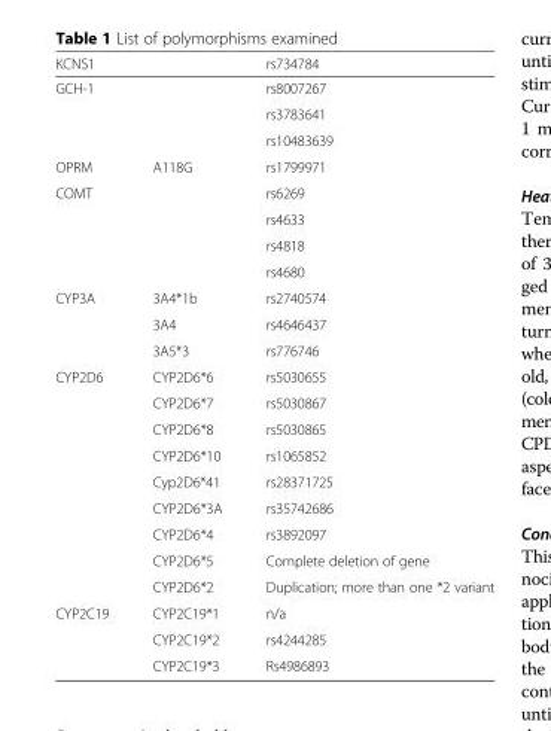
<table><thead><tr><td>KCNS1</td><td></td><td>rs734784</td></tr></thead><tbody><tr><td rowspan="3">GCH-1</td><td></td><td>rs8007267</td></tr><tr><td></td><td>rs3783641</td></tr><tr><td></td><td>rs10483639</td></tr><tr><td>OPRM</td><td>A118G</td><td>rs1799971</td></tr><tr><td rowspan="4">COMT</td><td></td><td>rs6269</td></tr><tr><td></td><td>rs4633</td></tr><tr><td></td><td>rs4818</td></tr><tr><td></td><td>rs4680</td></tr><tr><td rowspan="3">CYP3A</td><td>3A4*1b</td><td>rs2740574</td></tr><tr><td>3A4</td><td>rs4646437</td></tr><tr><td>3A5*3</td><td>rs776746</td></tr><tr><td rowspan="9">CYP2D6</td><td>CYP2D6*6</td><td>rs5030655</td></tr><tr><td>CYP2D6*7</td><td>rs5030867</td></tr><tr><td>CYP2D6*8</td><td>rs5030865</td></tr><tr><td>CYP2D6*10</td><td>rs1065852</td></tr><tr><td>Cyp2D6*41</td><td>rs28371725</td></tr><tr><td>CYP2D6*3A</td><td>rs35742686</td></tr><tr><td>CYP2D6*4</td><td>rs3892097</td></tr><tr><td>CYP2D6*5</td><td>Complete deletion of gene</td></tr><tr><td>CYP2D6*2</td><td>Duplication; more than one *2 variant</td></tr><tr><td rowspan="3">CYP2C19</td><td>CYP2C19*1</td><td>n/a</td></tr><tr><td>CYP2C19*2</td><td>rs4244285</td></tr><tr><td>CYP2C19*3</td><td>Rs4986893</td></tr></tbody></table>